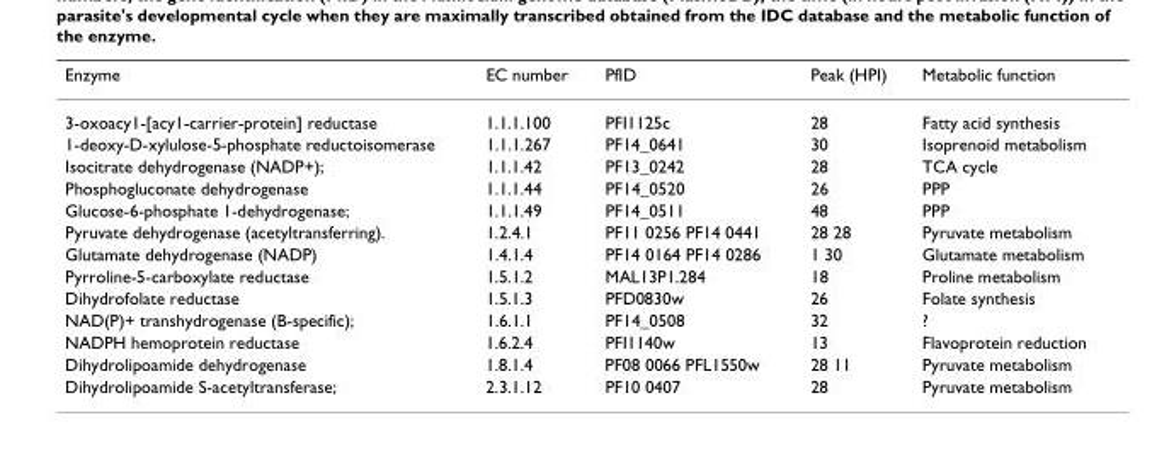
<table><thead><tr><td>Enzyme</td><td>EC number</td><td>PfID</td><td>Peak (HPI)</td><td>Metabolic function</td></tr></thead><tbody><tr><td>3-oxoacy1-[acy1-carrier-protein] reductase</td><td>1.1.1.100</td><td>PFI1125c</td><td>28</td><td>Fatty acid synthesis</td></tr><tr><td>1-deoxy-D-xylulose-5-phosphate reductoisomerase</td><td>1.1.1.267</td><td>PF14_0641</td><td>30</td><td>Isoprenoid metabolism</td></tr><tr><td>Isocitrate dehydrogenase (NADP+);</td><td>1.1.1.42</td><td>PF13_0242</td><td>28</td><td>TCA cycle</td></tr><tr><td>Phosphogluconate dehydrogenase</td><td>1.1.1.44</td><td>PF14_0520</td><td>26</td><td>PPP</td></tr><tr><td>Glucose-6-phosphate 1-dehydrogenase;</td><td>1.1.1.49</td><td>PF14_0511</td><td>48</td><td>PPP</td></tr><tr><td>Pyruvate dehydrogenase (acetyltransferring).</td><td>1.2.4.1</td><td>PF11 0256 PF14 0441</td><td>28 28</td><td>Pyruvate metabolism</td></tr><tr><td>Glutamate dehydrogenase (NADP)</td><td>1.4.1.4</td><td>PF14 0164 PF14 0286</td><td>1 30</td><td>Glutamate metabolism</td></tr><tr><td>Pyrroline-5-carboxylate reductase</td><td>1.5.1.2</td><td>MAL13P1.284</td><td>18</td><td>Proline metabolism</td></tr><tr><td>Dihydrofolate reductase</td><td>1.5.1.3</td><td>PFD0830w</td><td>26</td><td>Folate synthesis</td></tr><tr><td>NAD(P)+ transhydrogenase (B-specific);</td><td>1.6.1.1</td><td>PF14_0508</td><td>32</td><td>?</td></tr><tr><td>NADPH hemoprotein reductase</td><td>1.6.2.4</td><td>PFI1140w</td><td>13</td><td>Flavoprotein reduction</td></tr><tr><td>Dihydrolipoamide dehydrogenase</td><td>1.8.1.4</td><td>PF08 0066 PFL1550w</td><td>28 11</td><td>Pyruvate metabolism</td></tr><tr><td>Dihydrolipoamide S-acetyltransferase;</td><td>2.3.1.12</td><td>PF10 0407</td><td>28</td><td>Pyruvate metabolism</td></tr></tbody></table>